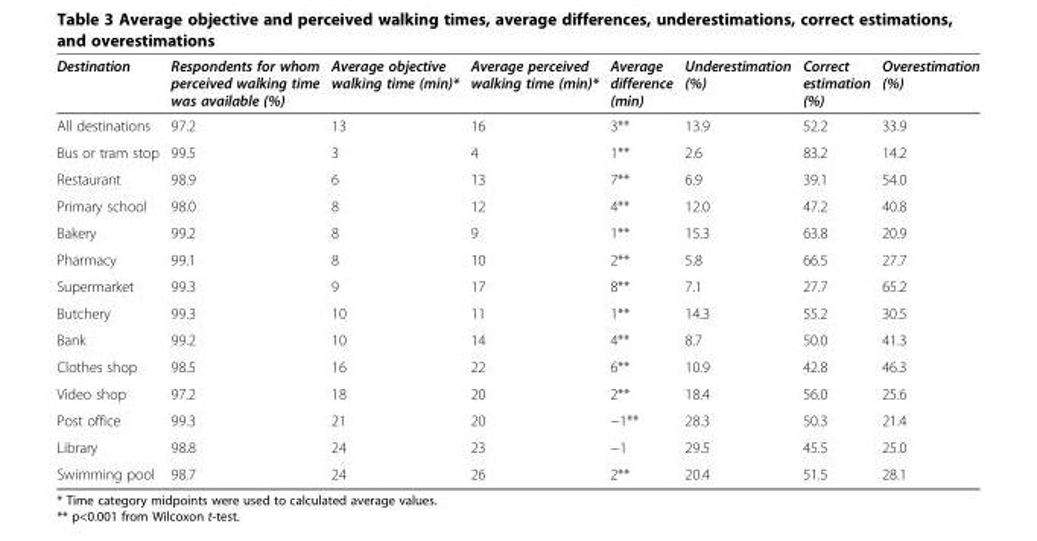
<table><thead><tr><td>Destination</td><td>Respondents for whom perceived walking time was available (%)</td><td>Average objective walking time (min)*</td><td>Average perceived walking time (min)*</td><td>Average difference (min)</td><td>Underestimation (%)</td><td>Correct estimation (%)</td><td>Overestimation (%)</td></tr></thead><tbody><tr><td>All destinations</td><td>97.2</td><td>13</td><td>16</td><td>3**</td><td>13.9</td><td>52.2</td><td>33.9</td></tr><tr><td>Bus or tram stop</td><td>99.5</td><td>3</td><td>4</td><td>1**</td><td>2.6</td><td>83.2</td><td>14.2</td></tr><tr><td>Restaurant</td><td>98.9</td><td>6</td><td>13</td><td>7**</td><td>6.9</td><td>39.1</td><td>54.0</td></tr><tr><td>Primary school</td><td>98.0</td><td>8</td><td>12</td><td>4**</td><td>12.0</td><td>47.2</td><td>40.8</td></tr><tr><td>Bakery</td><td>99.2</td><td>8</td><td>9</td><td>1**</td><td>15.3</td><td>63.8</td><td>20.9</td></tr><tr><td>Pharmacy</td><td>99.1</td><td>8</td><td>10</td><td>2**</td><td>5.8</td><td>66.5</td><td>27.7</td></tr><tr><td>Supermarket</td><td>99.3</td><td>9</td><td>17</td><td>8**</td><td>7.1</td><td>27.7</td><td>65.2</td></tr><tr><td>Butchery</td><td>99.3</td><td>10</td><td>11</td><td>1**</td><td>14.3</td><td>55.2</td><td>30.5</td></tr><tr><td>Bank</td><td>99.2</td><td>10</td><td>14</td><td>4**</td><td>8.7</td><td>50.0</td><td>41.3</td></tr><tr><td>Clothes shop</td><td>98.5</td><td>16</td><td>22</td><td>6**</td><td>10.9</td><td>42.8</td><td>46.3</td></tr><tr><td>Video shop</td><td>97.2</td><td>18</td><td>20</td><td>2**</td><td>18.4</td><td>56.0</td><td>25.6</td></tr><tr><td>Post office</td><td>99.3</td><td>21</td><td>20</td><td>−1**</td><td>28.3</td><td>50.3</td><td>21.4</td></tr><tr><td>Library</td><td>98.8</td><td>24</td><td>23</td><td>−1</td><td>29.5</td><td>45.5</td><td>25.0</td></tr><tr><td>Swimming pool</td><td>98.7</td><td>24</td><td>26</td><td>2**</td><td>20.4</td><td>51.5</td><td>28.1</td></tr></tbody></table>